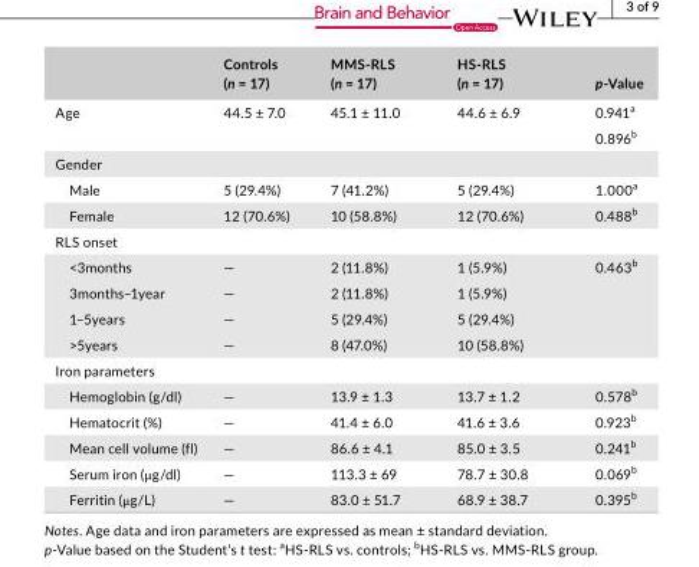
<table><thead><tr><td></td><td>Controls (n = 17)</td><td>MMS- RLS (n = 17)</td><td>HS- RLS (n = 17)</td><td>p- Value</td></tr></thead><tbody><tr><td rowspan="2">Age</td><td rowspan="2">44.5 ± 7.0</td><td rowspan="2">45.1 ± 11.0</td><td rowspan="2">44.6 ± 6.9</td><td>0.941<sup>a</sup></td></tr><tr><td>0.896<sup>b</sup></td></tr><tr><td colspan="5">Gender</td></tr><tr><td>Male</td><td>5 (29.4%)</td><td>7 (41.2%)</td><td>5 (29.4%)</td><td>1.000<sup>a</sup></td></tr><tr><td>Female</td><td>12 (70.6%)</td><td>10 (58.8%)</td><td>12 (70.6%)</td><td>0.488<sup>b</sup></td></tr><tr><td colspan="5">RLS onset</td></tr><tr><td>&lt;3months</td><td>—</td><td>2 (11.8%)</td><td>1 (5.9%)</td><td rowspan="4">0.463<sup>b</sup></td></tr><tr><td>3months–1year</td><td>—</td><td>2 (11.8%)</td><td>1 (5.9%)</td></tr><tr><td>1–5years</td><td>—</td><td>5 (29.4%)</td><td>5 (29.4%)</td></tr><tr><td>&gt;5years</td><td>—</td><td>8 (47.0%)</td><td>10 (58.8%)</td></tr><tr><td colspan="5">Iron parameters</td></tr><tr><td>Hemoglobin (g/dl)</td><td>—</td><td>13.9 ± 1.3</td><td>13.7 ± 1.2</td><td>0.578<sup>b</sup></td></tr><tr><td>Hematocrit (%)</td><td>—</td><td>41.4 ± 6.0</td><td>41.6 ± 3.6</td><td>0.923<sup>b</sup></td></tr><tr><td>Mean cell volume (fl)</td><td>—</td><td>86.6 ± 4.1</td><td>85.0 ± 3.5</td><td>0.241<sup>b</sup></td></tr><tr><td>Serum iron (μg/dl)</td><td>—</td><td>113.3 ± 69</td><td>78.7 ± 30.8</td><td>0.069<sup>b</sup></td></tr><tr><td>Ferritin (μg/L)</td><td>—</td><td>83.0 ± 51.7</td><td>68.9 ± 38.7</td><td>0.395<sup>b</sup></td></tr></tbody></table>